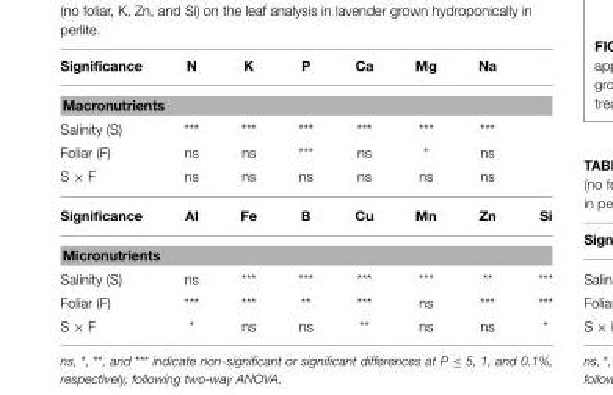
<table><thead><tr><td>Significance</td><td>N</td><td>K</td><td>P</td><td>Ca</td><td>Mg</td><td>Na</td><td></td></tr></thead><tbody><tr><td colspan="8">Macronutrients</td></tr><tr><td>Salinity (S)</td><td>***</td><td>***</td><td>***</td><td>***</td><td>***</td><td>***</td><td></td></tr><tr><td>Foliar (F)</td><td>ns</td><td>ns</td><td>***</td><td>ns</td><td>*</td><td>ns</td><td></td></tr><tr><td>S × F</td><td>ns</td><td>ns</td><td>ns</td><td>ns</td><td>ns</td><td>ns</td><td></td></tr><tr><td>Significance</td><td>Al</td><td>Fe</td><td>B</td><td>Cu</td><td>Mn</td><td>Zn</td><td>Si</td></tr><tr><td colspan="8">Micronutrients</td></tr><tr><td>Salinity (S)</td><td>ns</td><td>***</td><td>***</td><td>***</td><td>***</td><td>**</td><td>***</td></tr><tr><td>Foliar (F)</td><td>***</td><td>***</td><td>**</td><td>***</td><td>ns</td><td>***</td><td>***</td></tr><tr><td>S × F</td><td>*</td><td>ns</td><td>ns</td><td>**</td><td>ns</td><td>ns</td><td>*</td></tr></tbody></table>